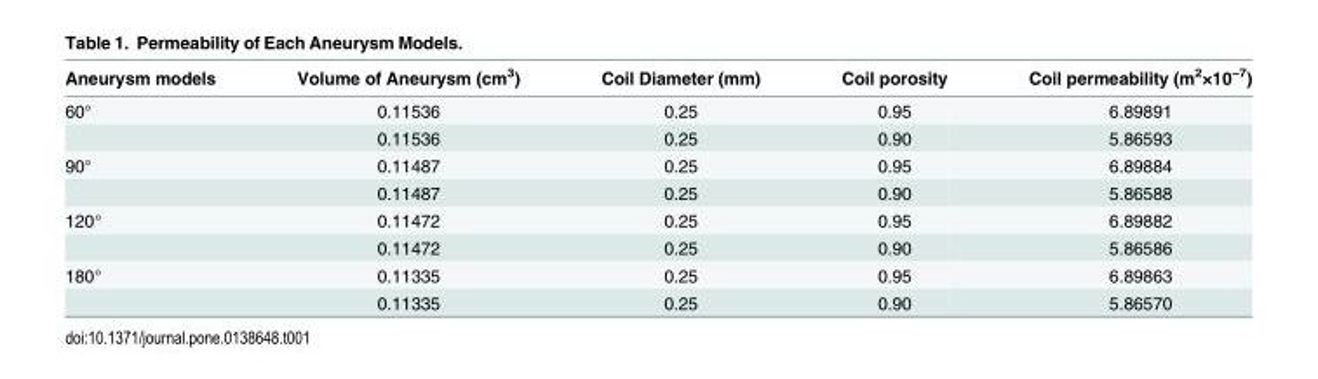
<table><thead><tr><td>Aneurysm models</td><td>Volume of Aneurysm (cm<sup>3</sup>)</td><td>Coil Diameter (mm)</td><td>Coil porosity</td><td>Coil permeability (m<sup>2</sup>×10<sup>−7</sup>)</td></tr></thead><tbody><tr><td rowspan="2">60°</td><td>0.11536</td><td>0.25</td><td>0.95</td><td>6.89891</td></tr><tr><td>0.11536</td><td>0.25</td><td>0.90</td><td>5.86593</td></tr><tr><td rowspan="2">90°</td><td>0.11487</td><td>0.25</td><td>0.95</td><td>6.89884</td></tr><tr><td>0.11487</td><td>0.25</td><td>0.90</td><td>5.86588</td></tr><tr><td rowspan="2">120°</td><td>0.11472</td><td>0.25</td><td>0.95</td><td>6.89882</td></tr><tr><td>0.11472</td><td>0.25</td><td>0.90</td><td>5.86586</td></tr><tr><td rowspan="2">180°</td><td>0.11335</td><td>0.25</td><td>0.95</td><td>6.89863</td></tr><tr><td>0.11335</td><td>0.25</td><td>0.90</td><td>5.86570</td></tr></tbody></table>